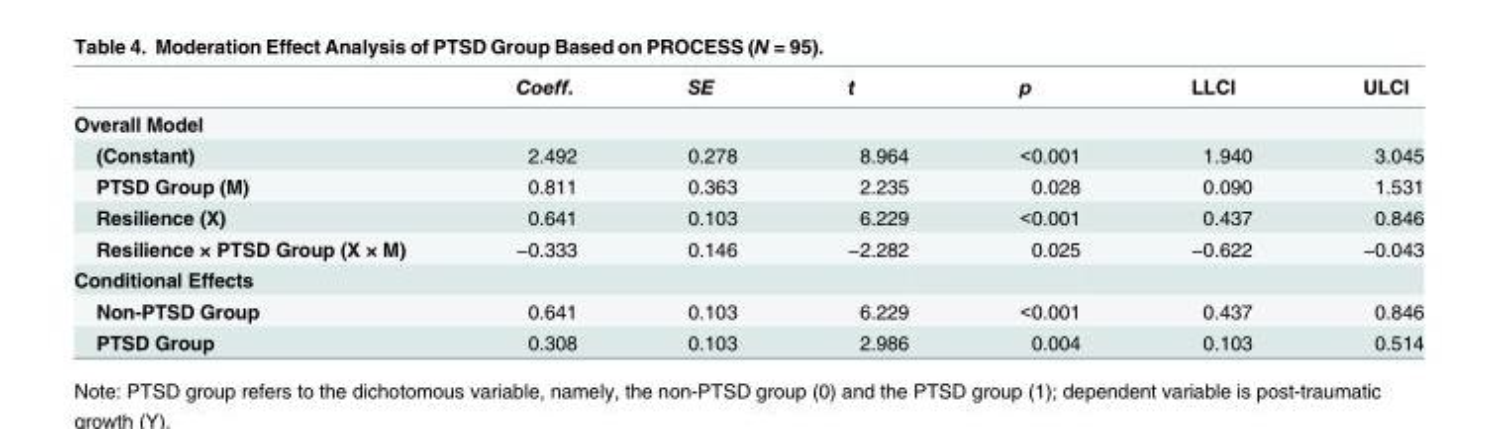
<table><thead><tr><td></td><td>Coeff.</td><td>SE</td><td>t</td><td>p</td><td>LLCI</td><td>ULCI</td></tr></thead><tbody><tr><td colspan="7">Overall Model</td></tr><tr><td>(Constant)</td><td>2.492</td><td>0.278</td><td>8.964</td><td>&lt;0.001</td><td>1.940</td><td>3.045</td></tr><tr><td>PTSD Group (M)</td><td>0.811</td><td>0.363</td><td>2.235</td><td>0.028</td><td>0.090</td><td>1.531</td></tr><tr><td>Resilience (X)</td><td>0.641</td><td>0.103</td><td>6.229</td><td>&lt;0.001</td><td>0.437</td><td>0.846</td></tr><tr><td>Resilience × PTSD Group (X × M)</td><td>−0.333</td><td>0.146</td><td>−2.282</td><td>0.025</td><td>−0.622</td><td>−0.043</td></tr><tr><td colspan="7">Conditional Effects</td></tr><tr><td>Non-PTSD Group</td><td>0.641</td><td>0.103</td><td>6.229</td><td>&lt;0.001</td><td>0.437</td><td>0.846</td></tr><tr><td>PTSD Group</td><td>0.308</td><td>0.103</td><td>2.986</td><td>0.004</td><td>0.103</td><td>0.514</td></tr></tbody></table>